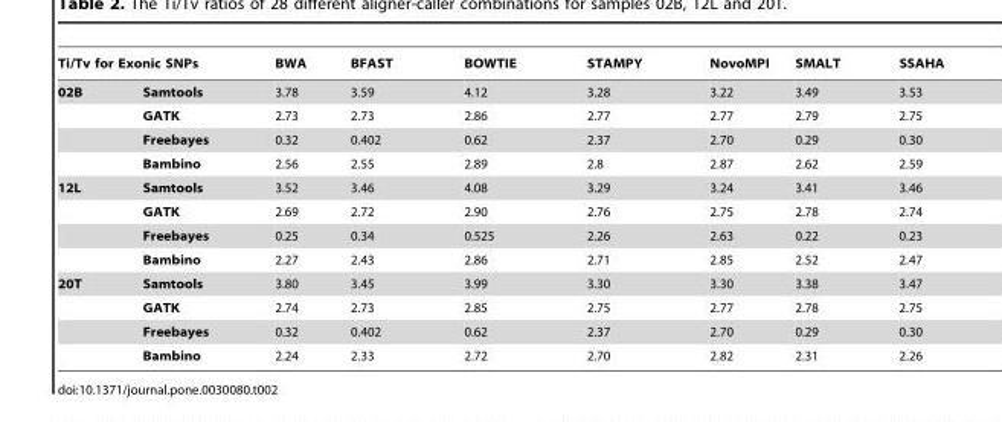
<table><thead><tr><td colspan="2">Ti/Tv for Exonic SNPs</td><td rowspan="2">BWA 3.78</td><td rowspan="2">BFAST 3.59</td><td rowspan="2">BOWTIE 4.12</td><td rowspan="2">STAMPY 3.28</td><td rowspan="2">NovoMPI 3.22</td><td rowspan="2">SMALT 3.49</td><td rowspan="2">SSAHA 3.53</td></tr><tr><td>02B</td><td>Samtools</td></tr></thead><tbody><tr><td></td><td>GATK</td><td>2.73</td><td>2.73</td><td>2.86</td><td>2.77</td><td>2.77</td><td>2.79</td><td>2.75</td></tr><tr><td></td><td>Freebayes</td><td>0.32</td><td>0.402</td><td>0.62</td><td>2.37</td><td>2.70</td><td>0.29</td><td>0.30</td></tr><tr><td></td><td>Bambino</td><td>2.56</td><td>2.55</td><td>2.89</td><td>2.8</td><td>2.87</td><td>2.62</td><td>2.59</td></tr><tr><td rowspan="4">12L</td><td>Samtools</td><td>3.52</td><td>3.46</td><td>4.08</td><td>3.29</td><td>3.24</td><td>3.41</td><td>3.46</td></tr><tr><td>GATK</td><td>2.69</td><td>2.72</td><td>2.90</td><td>2.76</td><td>2.75</td><td>2.78</td><td>2.74</td></tr><tr><td>Freebayes</td><td>0.25</td><td>0.34</td><td>0.525</td><td>2.26</td><td>2.63</td><td>0.22</td><td>0.23</td></tr><tr><td>Bambino</td><td>2.27</td><td>2.43</td><td>2.86</td><td>2.71</td><td>2.85</td><td>2.52</td><td>2.47</td></tr><tr><td rowspan="4">20T</td><td>Samtools</td><td>3.80</td><td>3.45</td><td>3.99</td><td>3.30</td><td>3.30</td><td>3.38</td><td>3.47</td></tr><tr><td>GATK</td><td>2.74</td><td>2.73</td><td>2.85</td><td>2.75</td><td>2.77</td><td>2.78</td><td>2.75</td></tr><tr><td>Freebayes</td><td>0.32</td><td>0.402</td><td>0.62</td><td>2.37</td><td>2.70</td><td>0.29</td><td>0.30</td></tr><tr><td>Bambino</td><td>2.24</td><td>2.33</td><td>2.72</td><td>2.70</td><td>2.82</td><td>2.31</td><td>2.26</td></tr></tbody></table>